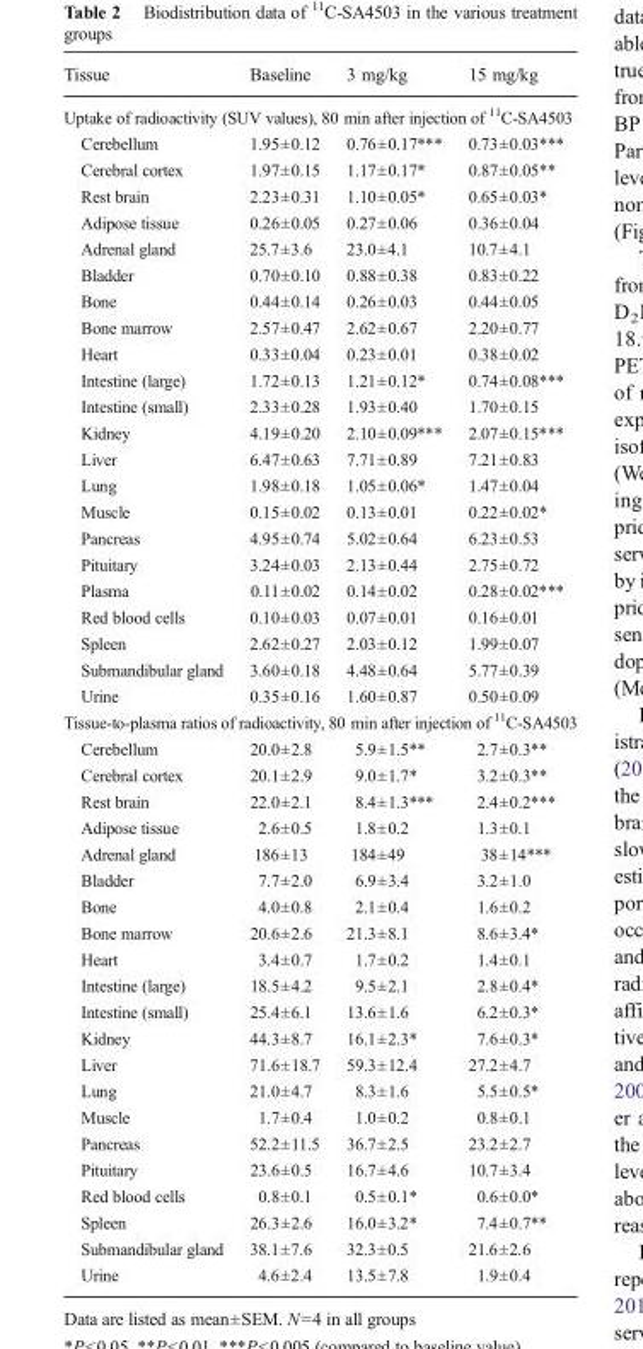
<table><thead><tr><td>Tissue</td><td>Baseline</td><td>3 mg/kg</td><td>15 mg/kg</td></tr></thead><tbody><tr><td colspan="4">Uptake of radioactivity (SUV values), 80 min after injection of <sup>11</sup>C-SA4503</td></tr><tr><td>Cerebellum</td><td>1.95±0.12</td><td>0.76±0.17***</td><td>0.73±0.03***</td></tr><tr><td>Cerebral cortex</td><td>1.97±0.15</td><td>1.17±0.17*</td><td>0.87±0.05**</td></tr><tr><td>Rest brain</td><td>2.23±0.31</td><td>1.10±0.05*</td><td>0.65±0.03*</td></tr><tr><td>Adipose tissue</td><td>0.26±0.05</td><td>0.27±0.06</td><td>0.36±0.04</td></tr><tr><td>Adrenal gland</td><td>25.7±3.6</td><td>23.0±4.1</td><td>10.7±4.1</td></tr><tr><td>Bladder</td><td>0.70±0.10</td><td>0.88±0.38</td><td>0.83±0.22</td></tr><tr><td>Bone</td><td>0.44±0.14</td><td>0.26±0.03</td><td>0.44±0.05</td></tr><tr><td>Bone marrow</td><td>2.57±0.47</td><td>2.62±0.67</td><td>2.20±0.77</td></tr><tr><td>Heart</td><td>0.33±0.04</td><td>0.23±0.01</td><td>0.38±0.02</td></tr><tr><td>Intestine (large)</td><td>1.72±0.13</td><td>1.21±0.12*</td><td>0.74±0.08***</td></tr><tr><td>Intestine (small)</td><td>2.33±0.28</td><td>1.93±0.40</td><td>1.70±0.15</td></tr><tr><td>Kidney</td><td>4.19±0.20</td><td>2.10±0.09***</td><td>2.07±0.15***</td></tr><tr><td>Liver</td><td>6.47±0.63</td><td>7.71±0.89</td><td>7.21±0.83</td></tr><tr><td>Lung</td><td>1.98±0.18</td><td>1.05±0.06*</td><td>1.47±0.04</td></tr><tr><td>Muscle</td><td>0.15±0.02</td><td>0.13±0.01</td><td>0.22±0.02*</td></tr><tr><td>Pancreas</td><td>4.95±0.74</td><td>5.02±0.64</td><td>6.23±0.53</td></tr><tr><td>Pituitary</td><td>3.24±0.03</td><td>2.13±0.44</td><td>2.75±0.72</td></tr><tr><td>Plasma</td><td>0.11±0.02</td><td>0.14±0.02</td><td>0.28±0.02***</td></tr><tr><td>Red blood cells</td><td>0.10±0.03</td><td>0.07±0.01</td><td>0.16±0.01</td></tr><tr><td>Spleen</td><td>2.62±0.27</td><td>2.03±0.12</td><td>1.99±0.07</td></tr><tr><td>Submandibular gland</td><td>3.60±0.18</td><td>4.48±0.64</td><td>5.77±0.39</td></tr><tr><td>Urine</td><td>0.35±0.16</td><td>1.60±0.87</td><td>0.50±0.09</td></tr><tr><td colspan="4">Tissue-to-plasma ratios of radioactivity, 80 min after injection of <sup>11</sup>C-SA4503</td></tr><tr><td>Cerebellum</td><td>20.0±2.8</td><td>5.9±1.5**</td><td>2.7±0.3**</td></tr><tr><td>Cerebral cortex</td><td>20.1±2.9</td><td>9.0±1.7*</td><td>3.2±0.3**</td></tr><tr><td>Rest brain</td><td>22.0±2.1</td><td>8.4±1.3***</td><td>2.4±0.2***</td></tr><tr><td>Adipose tissue</td><td>2.6±0.5</td><td>1.8±0.2</td><td>1.3±0.1</td></tr><tr><td>Adrenal gland</td><td>186±13</td><td>184±49</td><td>38±14***</td></tr><tr><td>Bladder</td><td>7.7±2.0</td><td>6.9±3.4</td><td>3.2±1.0</td></tr><tr><td>Bone</td><td>4.0±0.8</td><td>2.1±0.4</td><td>1.6±0.2</td></tr><tr><td>Bone marrow</td><td>20.6±2.6</td><td>21.3±8.1</td><td>8.6±3.4*</td></tr><tr><td>Heart</td><td>3.4±0.7</td><td>1.7±0.2</td><td>1.4±0.1</td></tr><tr><td>Intestine (large)</td><td>18.5±4.2</td><td>9.5±2.1</td><td>2.8±0.4*</td></tr><tr><td>Intestine (small)</td><td>25.4±6.1</td><td>13.6±1.6</td><td>6.2±0.3*</td></tr><tr><td>Kidney</td><td>44.3±8.7</td><td>16.1±2.3*</td><td>7.6±0.3*</td></tr><tr><td>Liver</td><td>71.6±18.7</td><td>59.3±12.4</td><td>27.2±4.7</td></tr><tr><td>Lung</td><td>21.0±4.7</td><td>8.3±1.6</td><td>5.5±0.5*</td></tr><tr><td>Muscle</td><td>1.7±0.4</td><td>1.0±0.2</td><td>0.8±0.1</td></tr><tr><td>Pancreas</td><td>52.2±11.5</td><td>36.7±2.5</td><td>23.2±2.7</td></tr><tr><td>Pituitary</td><td>23.6±0.5</td><td>16.7±4.6</td><td>10.7±3.4</td></tr><tr><td>Red blood cells</td><td>0.8±0.1</td><td>0.5±0.1*</td><td>0.6±0.0*</td></tr><tr><td>Spleen</td><td>26.3±2.6</td><td>16.0±3.2*</td><td>7.4±0.7**</td></tr><tr><td>Submandibular gland</td><td>38.1±7.6</td><td>32.3±0.5</td><td>21.6±2.6</td></tr><tr><td>Urine</td><td>4.6±2.4</td><td>13.5±7.8</td><td>1.9±0.4</td></tr></tbody></table>